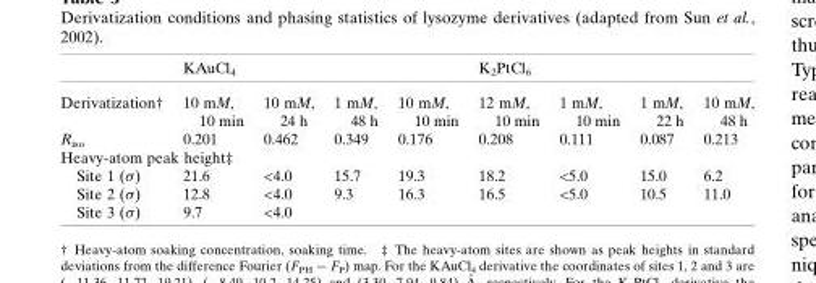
<table><thead><tr><td rowspan="2">Derivatization†</td><td colspan="4">KAuCl<sub>4</sub></td><td colspan="4">K<sub>2</sub>PtCl<sub>6</sub></td></tr><tr><td>10 mM, 10 min</td><td>10 mM, 24 h</td><td>1 mM, 48 h</td><td>10 mM, 10 min</td><td>12 mM, 10 min</td><td>1 mM, 10 min</td><td>1 mM, 22 h</td><td>10 mM, 48 h</td></tr></thead><tbody><tr><td>R<sub>iso</sub></td><td>0.201</td><td>0.462</td><td>0.349</td><td>0.176</td><td>0.208</td><td>0.111</td><td>0.087</td><td>0.213</td></tr><tr><td colspan="9">Heavy-atom peak height‡</td></tr><tr><td>Site 1 (�)</td><td>21.6</td><td>&lt;4.0</td><td>15.7</td><td>19.3</td><td>18.2</td><td>&lt;5.0</td><td>15.0</td><td>6.2</td></tr><tr><td>Site 2 (�)</td><td>12.8</td><td>&lt;4.0</td><td>9.3</td><td>16.3</td><td>16.5</td><td>&lt;5.0</td><td>10.5</td><td>11.0</td></tr><tr><td>Site 3 (�)</td><td>9.7</td><td>&lt;4.0</td><td></td><td></td><td></td><td></td><td></td><td></td></tr></tbody></table>